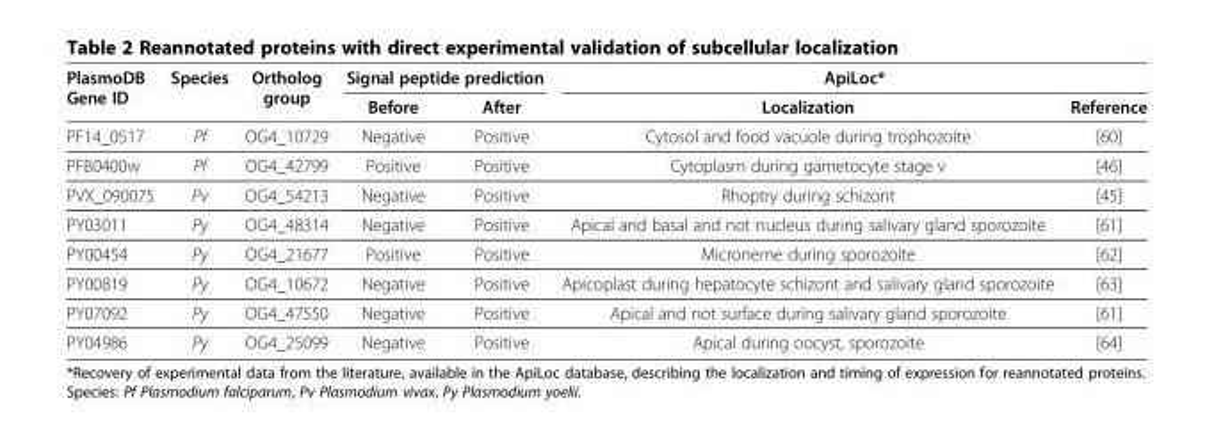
<table><thead><tr><td rowspan="2">PlasmoDB Gene ID</td><td rowspan="2">Species</td><td rowspan="2">Ortholog group</td><td colspan="2">Signal peptide prediction</td><td colspan="2">ApiLoc*</td></tr><tr><td>Before</td><td>After</td><td>Localization</td><td>Reference</td></tr></thead><tbody><tr><td>PF14_0517</td><td>Pf</td><td>OG4_10729</td><td>Negative</td><td>Positive</td><td>Cytosol and food vacuole during trophozoite</td><td>[60]</td></tr><tr><td>PFB0400w</td><td>Pf</td><td>OG4_42799</td><td>Positive</td><td>Positive</td><td>Cytoplasm during gametocyte stage v</td><td>[46]</td></tr><tr><td>PVX_090075</td><td>Pv</td><td>OG4_54213</td><td>Negative</td><td>Positive</td><td>Rhoptry during schizont</td><td>[45]</td></tr><tr><td>PY03011</td><td>Py</td><td>OG4_48314</td><td>Negative</td><td>Positive</td><td>Apical and basal and not nucleus during salivary gland sporozoite</td><td>[61]</td></tr><tr><td>PY00454</td><td>Py</td><td>OG4_21677</td><td>Positive</td><td>Positive</td><td>Microneme during sporozoite</td><td>[62]</td></tr><tr><td>PY00819</td><td>Py</td><td>OG4_10672</td><td>Negative</td><td>Positive</td><td>Apicoplast during hepatocyte schizont and salivary gland sporozoite</td><td>[63]</td></tr><tr><td>PY07092</td><td>Py</td><td>OG4_47550</td><td>Negative</td><td>Positive</td><td>Apical and not surface during salivary gland sporozoite</td><td>[61]</td></tr><tr><td>PY04986</td><td>Py</td><td>OG4_25099</td><td>Negative</td><td>Positive</td><td>Apical during oocyst, sporozoite</td><td>[64]</td></tr></tbody></table>